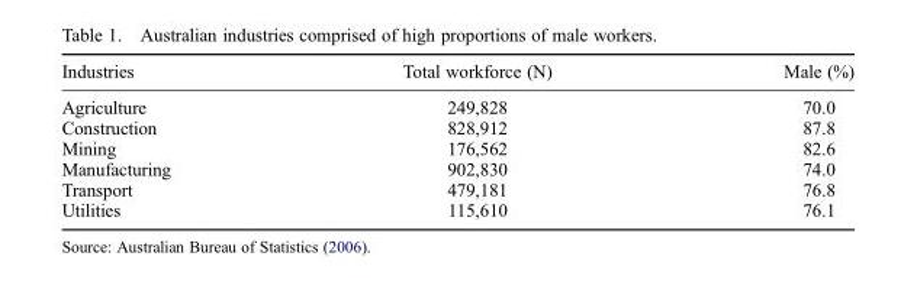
<table><thead><tr><td>Industries</td><td>Total workforce (N)</td><td>Male (%)</td></tr></thead><tbody><tr><td>Agriculture</td><td>249,828</td><td>70.0</td></tr><tr><td>Construction</td><td>828,912</td><td>87.8</td></tr><tr><td>Mining</td><td>176,562</td><td>82.6</td></tr><tr><td>Manufacturing</td><td>902,830</td><td>74.0</td></tr><tr><td>Transport</td><td>479,181</td><td>76.8</td></tr><tr><td>Utilities</td><td>115,610</td><td>76.1</td></tr></tbody></table>